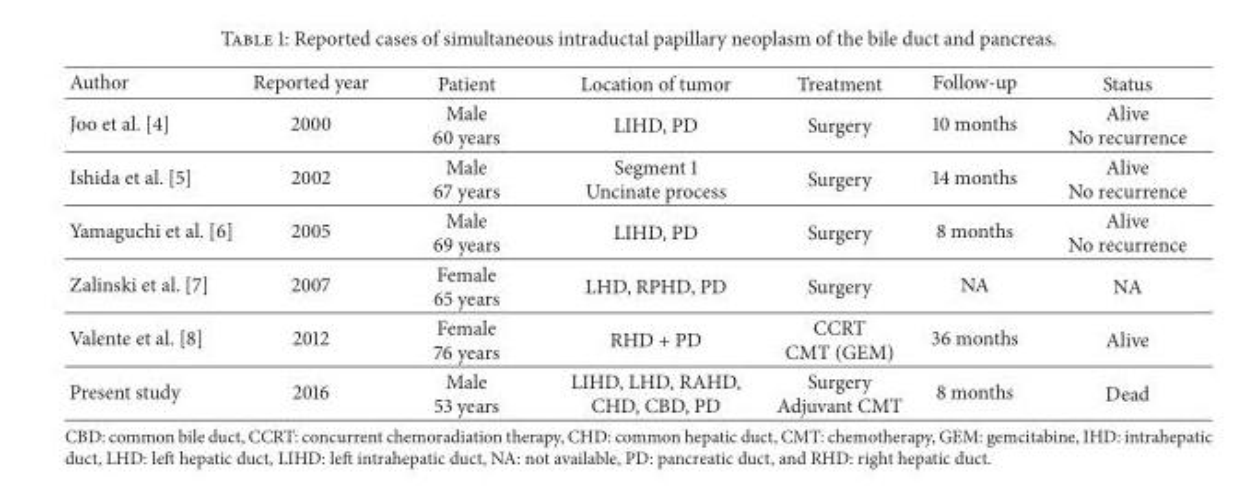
<table><thead><tr><td>Author</td><td>Reported year</td><td>Patient</td><td>Location of tumor</td><td>Treatment</td><td>Follow-up</td><td>Status</td></tr></thead><tbody><tr><td>Joo et al. [4]</td><td>2000</td><td>Male 60 years</td><td>LIHD, PD</td><td>Surgery</td><td>10 months</td><td>Alive No recurrence</td></tr><tr><td>Ishida et al. [5]</td><td>2002</td><td>Male 67 years</td><td>Segment 1 Uncinate process</td><td>Surgery</td><td>14 months</td><td>Alive No recurrence</td></tr><tr><td>Yamaguchi et al. [6]</td><td>2005</td><td>Male 69 years</td><td>LIHD, PD</td><td>Surgery</td><td>8 months</td><td>Alive No recurrence</td></tr><tr><td>Zalinski et al. [7]</td><td>2007</td><td>Female 65 years</td><td>LHD, RPHD, PD</td><td>Surgery</td><td>NA</td><td>NA</td></tr><tr><td>Valente et al. [8]</td><td>2012</td><td>Female 76 years</td><td>RHD + PD</td><td>CCRT CMT (GEM)</td><td>36 months</td><td>Alive</td></tr><tr><td>Present study</td><td>2016</td><td>Male 53 years</td><td>LIHD, LHD, RAHD, CHD, CBD, PD</td><td>Surgery Adjuvant CMT</td><td>8 months</td><td>Dead</td></tr></tbody></table>